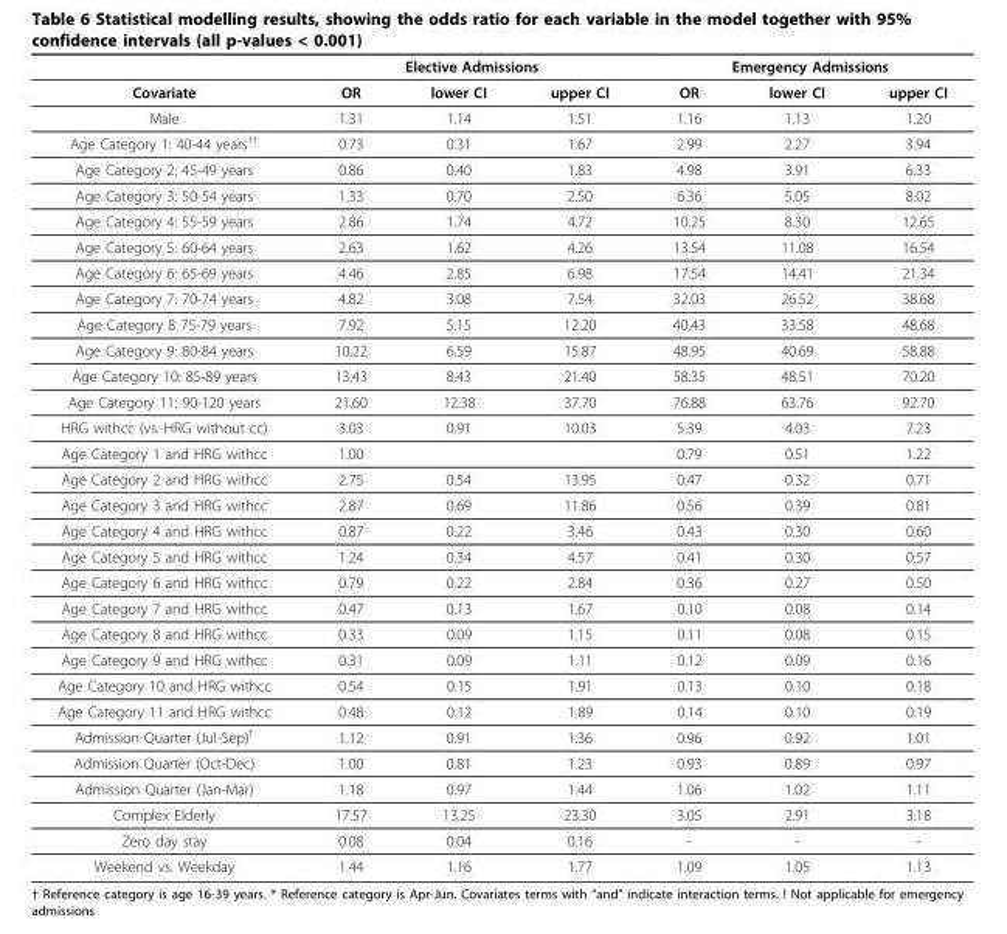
<table><thead><tr><td rowspan="2">Covariate</td><td colspan="3">Elective Admissions</td><td colspan="3">Emergency Admissions</td></tr><tr><td>OR</td><td>lower CI</td><td>upper CI</td><td>OR</td><td>lower CI</td><td>upper CI</td></tr></thead><tbody><tr><td>Male</td><td>1.31</td><td>1.14</td><td>1.51</td><td>1.16</td><td>1.13</td><td>1.20</td></tr><tr><td>Age Category 1: 40-44 years<sup>††</sup></td><td>0.73</td><td>0.31</td><td>1.67</td><td>2.99</td><td>2.27</td><td>3.94</td></tr><tr><td>Age Category 2: 45-49 years</td><td>0.86</td><td>0.40</td><td>1.83</td><td>4.98</td><td>3.91</td><td>6.33</td></tr><tr><td>Age Category 3: 50-54 years</td><td>1.33</td><td>0.70</td><td>2.50</td><td>6.36</td><td>5.05</td><td>8.02</td></tr><tr><td>Age Category 4: 55-59 years</td><td>2.86</td><td>1.74</td><td>4.72</td><td>10.25</td><td>8.30</td><td>12.65</td></tr><tr><td>Age Category 5: 60-64 years</td><td>2.63</td><td>1.62</td><td>4.26</td><td>13.54</td><td>11.08</td><td>16.54</td></tr><tr><td>Age Category 6: 65-69 years</td><td>4.46</td><td>2.85</td><td>6.98</td><td>17.54</td><td>14.41</td><td>21.34</td></tr><tr><td>Age Category 7: 70-74 years</td><td>4.82</td><td>3.08</td><td>7.54</td><td>32.03</td><td>26.52</td><td>38.68</td></tr><tr><td>Age Category 8 75-79 years</td><td>7.92</td><td>5.15</td><td>12.20</td><td>40.43</td><td>33.58</td><td>48.68</td></tr><tr><td>Age Category 9: 80-84 years</td><td>10.22</td><td>6.59</td><td>15.87</td><td>48.95</td><td>40.69</td><td>58.88</td></tr><tr><td>Age Category 10: 85-89 years</td><td>13.43</td><td>8.43</td><td>21.40</td><td>58.35</td><td>48.51</td><td>70.20</td></tr><tr><td>Age Category 11: 90-120 years</td><td>21.60</td><td>12.38</td><td>37.70</td><td>76.88</td><td>63.76</td><td>92.70</td></tr><tr><td>HRG withcc (vs. HRG without cc)</td><td>3.03</td><td>0.91</td><td>10.03</td><td>5.39</td><td>4.03</td><td>7.23</td></tr><tr><td>Age Category 1 and HRG withcc</td><td>1.00</td><td></td><td></td><td>0.79</td><td>0.51</td><td>1.22</td></tr><tr><td>Age Category 2 and HRG withcc</td><td>2.75</td><td>0.54</td><td>13.95</td><td>0.47</td><td>0.32</td><td>0.71</td></tr><tr><td>Age Category 3 and HRG withcc</td><td>2.87</td><td>0.69</td><td>11.86</td><td>0.56</td><td>0.39</td><td>0.81</td></tr><tr><td>Age Category 4 and HRG withcc</td><td>0.87</td><td>0.22</td><td>3.46</td><td>0.43</td><td>0.30</td><td>0.60</td></tr><tr><td>Age Category 5 and HRG withcc</td><td>1.24</td><td>0.34</td><td>4.57</td><td>0.41</td><td>0.30</td><td>0.57</td></tr><tr><td>Age Category 6 and HRG withcc</td><td>0.79</td><td>0.22</td><td>2.84</td><td>0.36</td><td>0.27</td><td>0.50</td></tr><tr><td>Age Category 7 and HRG withcc</td><td>0.47</td><td>0.13</td><td>1.67</td><td>0.10</td><td>0.08</td><td>0.14</td></tr><tr><td>Age Category 8 and HRG withcc</td><td>0.33</td><td>0.09</td><td>1.15</td><td>0.11</td><td>0.08</td><td>0.15</td></tr><tr><td>Age Category 9 and HRG withcc</td><td>0.31</td><td>0.09</td><td>1.11</td><td>0.12</td><td>0.09</td><td>0.16</td></tr><tr><td>Age Category 10 and HRG withcc</td><td>0.54</td><td>0.15</td><td>1.91</td><td>0.13</td><td>0.10</td><td>0.18</td></tr><tr><td>Age Category 11 and HRG withcc</td><td>0.48</td><td>0.12</td><td>1.89</td><td>0.14</td><td>0.10</td><td>0.19</td></tr><tr><td>Admission Quarter (Jul-Sep)<sup>†</sup></td><td>1.12</td><td>0.91</td><td>1.36</td><td>0.96</td><td>0.92</td><td>1.01</td></tr><tr><td>Admission Quarter (Oct-Dec)</td><td>1.00</td><td>0.81</td><td>1.23</td><td>0.93</td><td>0.89</td><td>0.97</td></tr><tr><td>Admission Quarter (Jan-Mar)</td><td>1.18</td><td>0.97</td><td>1.44</td><td>1.06</td><td>1.02</td><td>1.11</td></tr><tr><td>Complex Elderly</td><td>17.57</td><td>13.25</td><td>23.30</td><td>3.05</td><td>2.91</td><td>3.18</td></tr><tr><td>Zero day stay</td><td>0.08</td><td>0.04</td><td>0.16</td><td>-</td><td>-</td><td>-</td></tr><tr><td>Weekend vs. Weekday</td><td>1.44</td><td>1.16</td><td>1.77</td><td>1.09</td><td>1.05</td><td>1.13</td></tr></tbody></table>